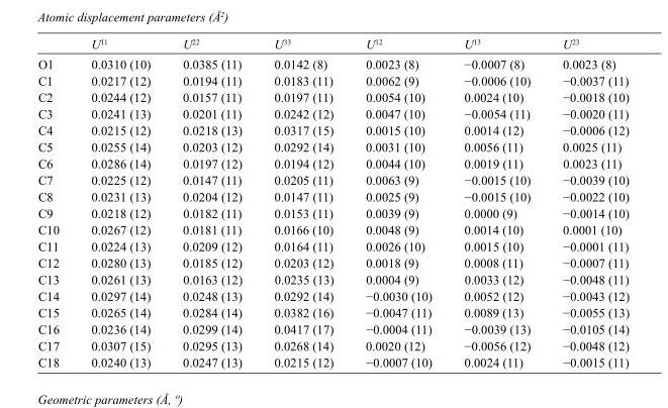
<table><thead><tr><td></td><td>U<sup>11</sup></td><td>U<sup>22</sup></td><td>U<sup>33</sup></td><td>U<sup>12</sup></td><td>U<sup>13</sup></td><td>U<sup>23</sup></td></tr></thead><tbody><tr><td>O1</td><td>0.0310 (10)</td><td>0.0385 (11)</td><td>0.0142 (8)</td><td>0.0023 (8)</td><td>−0.0007 (8)</td><td>0.0023 (8)</td></tr><tr><td>C1</td><td>0.0217 (12)</td><td>0.0194 (11)</td><td>0.0183 (11)</td><td>0.0062 (9)</td><td>−0.0006 (10)</td><td>−0.0037 (11)</td></tr><tr><td>C2</td><td>0.0244 (12)</td><td>0.0157 (11)</td><td>0.0197 (11)</td><td>0.0054 (10)</td><td>0.0024 (10)</td><td>−0.0018 (10)</td></tr><tr><td>C3</td><td>0.0241 (13)</td><td>0.0201 (11)</td><td>0.0242 (12)</td><td>0.0047 (10)</td><td>−0.0054 (11)</td><td>−0.0020 (11)</td></tr><tr><td>C4</td><td>0.0215 (12)</td><td>0.0218 (13)</td><td>0.0317 (15)</td><td>0.0015 (10)</td><td>0.0014 (12)</td><td>−0.0006 (12)</td></tr><tr><td>C5</td><td>0.0255 (14)</td><td>0.0203 (12)</td><td>0.0292 (14)</td><td>0.0031 (10)</td><td>0.0056 (11)</td><td>0.0025 (11)</td></tr><tr><td>C6</td><td>0.0286 (14)</td><td>0.0197 (12)</td><td>0.0194 (12)</td><td>0.0044 (10)</td><td>0.0019 (11)</td><td>0.0023 (11)</td></tr><tr><td>C7</td><td>0.0225 (12)</td><td>0.0147 (11)</td><td>0.0205 (11)</td><td>0.0063 (9)</td><td>−0.0015 (10)</td><td>−0.0039 (10)</td></tr><tr><td>C8</td><td>0.0231 (13)</td><td>0.0204 (12)</td><td>0.0147 (11)</td><td>0.0025 (9)</td><td>−0.0015 (10)</td><td>−0.0022 (10)</td></tr><tr><td>C9</td><td>0.0218 (12)</td><td>0.0182 (11)</td><td>0.0153 (11)</td><td>0.0039 (9)</td><td>0.0000 (9)</td><td>−0.0014 (10)</td></tr><tr><td>C10</td><td>0.0267 (12)</td><td>0.0181 (11)</td><td>0.0166 (10)</td><td>0.0048 (9)</td><td>0.0014 (10)</td><td>0.0001 (10)</td></tr><tr><td>C11</td><td>0.0224 (13)</td><td>0.0209 (12)</td><td>0.0164 (11)</td><td>0.0026 (10)</td><td>0.0015 (10)</td><td>−0.0001 (11)</td></tr><tr><td>C12</td><td>0.0280 (13)</td><td>0.0185 (12)</td><td>0.0203 (12)</td><td>0.0018 (9)</td><td>0.0008 (11)</td><td>−0.0007 (11)</td></tr><tr><td>C13</td><td>0.0261 (13)</td><td>0.0163 (12)</td><td>0.0235 (13)</td><td>0.0004 (9)</td><td>0.0033 (12)</td><td>−0.0048 (11)</td></tr><tr><td>C14</td><td>0.0297 (14)</td><td>0.0248 (13)</td><td>0.0292 (14)</td><td>−0.0030 (10)</td><td>0.0052 (12)</td><td>−0.0043 (12)</td></tr><tr><td>C15</td><td>0.0265 (14)</td><td>0.0284 (14)</td><td>0.0382 (16)</td><td>−0.0047 (11)</td><td>0.0089 (13)</td><td>−0.0055 (13)</td></tr><tr><td>C16</td><td>0.0236 (14)</td><td>0.0299 (14)</td><td>0.0417 (17)</td><td>−0.0004 (11)</td><td>−0.0039 (13)</td><td>−0.0105 (14)</td></tr><tr><td>C17</td><td>0.0307 (15)</td><td>0.0295 (13)</td><td>0.0268 (14)</td><td>0.0020 (12)</td><td>−0.0056 (12)</td><td>−0.0048 (12)</td></tr><tr><td>C18</td><td>0.0240 (13)</td><td>0.0247 (13)</td><td>0.0215 (12)</td><td>−0.0007 (10)</td><td>0.0024 (11)</td><td>−0.0015 (11)</td></tr></tbody></table>